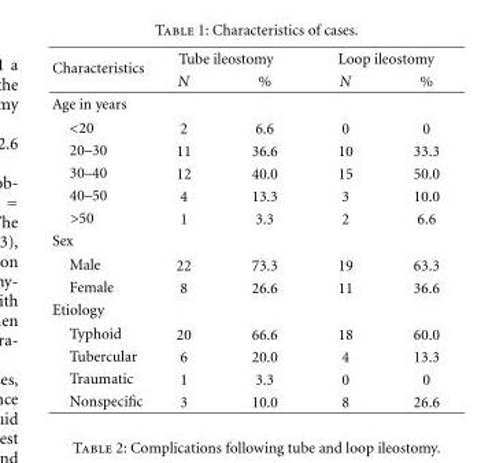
<table><thead><tr><td rowspan="2">Characteristics</td><td colspan="2">Tube ileostomy</td><td colspan="2">Loop ileostomy</td></tr><tr><td>N</td><td>%</td><td>N</td><td>%</td></tr></thead><tbody><tr><td colspan="5">Age in years</td></tr><tr><td>&lt;20</td><td>2</td><td>6.6</td><td>0</td><td>0</td></tr><tr><td>20–30</td><td>11</td><td>36.6</td><td>10</td><td>33.3</td></tr><tr><td>30–40</td><td>12</td><td>40.0</td><td>15</td><td>50.0</td></tr><tr><td>40–50</td><td>4</td><td>13.3</td><td>3</td><td>10.0</td></tr><tr><td>&gt;50</td><td>1</td><td>3.3</td><td>2</td><td>6.6</td></tr><tr><td colspan="5">Sex</td></tr><tr><td>Male</td><td>22</td><td>73.3</td><td>19</td><td>63.3</td></tr><tr><td>Female</td><td>8</td><td>26.6</td><td>11</td><td>36.6</td></tr><tr><td colspan="5">Etiology</td></tr><tr><td>Typhoid</td><td>20</td><td>66.6</td><td>18</td><td>60.0</td></tr><tr><td>Tubercular</td><td>6</td><td>20.0</td><td>4</td><td>13.3</td></tr><tr><td>Traumatic</td><td>1</td><td>3.3</td><td>0</td><td>0</td></tr><tr><td>Nonspecific</td><td>3</td><td>10.0</td><td>8</td><td>26.6</td></tr></tbody></table>